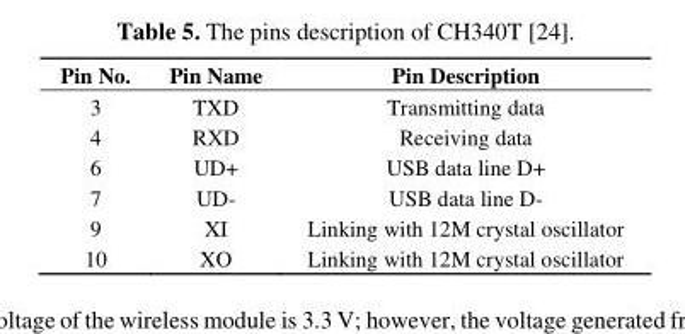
<table><thead><tr><td>Pin No.</td><td>Pin Name</td><td>Pin Description</td></tr></thead><tbody><tr><td>3</td><td>TXD</td><td>Transmitting data</td></tr><tr><td>4</td><td>RXD</td><td>Receiving data</td></tr><tr><td>6</td><td>UD+</td><td>USB data line D+</td></tr><tr><td>7</td><td>UD-</td><td>USB data line D-</td></tr><tr><td>9</td><td>XI</td><td>Linking with 12M crystal oscillator</td></tr><tr><td>10</td><td>XO</td><td>Linking with 12M crystal oscillator</td></tr></tbody></table>